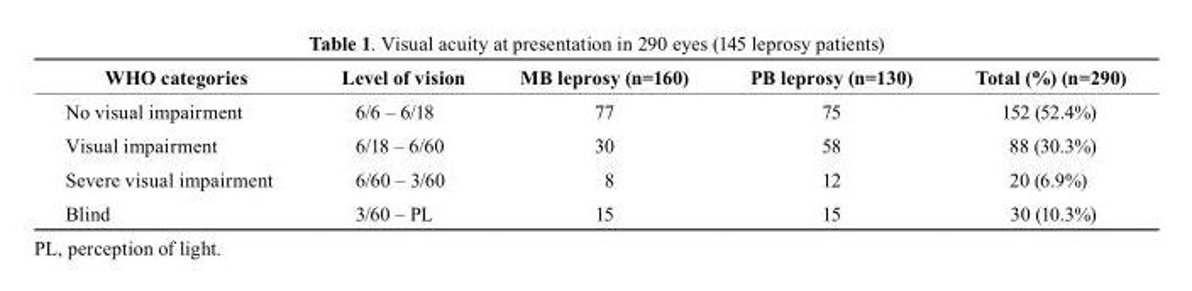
<table><thead><tr><td>WHO categories</td><td>Level of vision</td><td>Mb leprosy (n=160)</td><td>Pb leprosy (n=130)</td><td>total (%) (n=290)</td></tr></thead><tbody><tr><td>No visual impairment</td><td>6/6 – 6/18</td><td>77</td><td>75</td><td>152 (52.4%)</td></tr><tr><td>Visual impairment</td><td>6/18 – 6/60</td><td>30</td><td>58</td><td>88 (30.3%)</td></tr><tr><td>Severe visual impairment</td><td>6/60 – 3/60</td><td>8</td><td>12</td><td>20 (6.9%)</td></tr><tr><td>Blind</td><td>3/60 – PL</td><td>15</td><td>15</td><td>30 (10.3%)</td></tr></tbody></table>